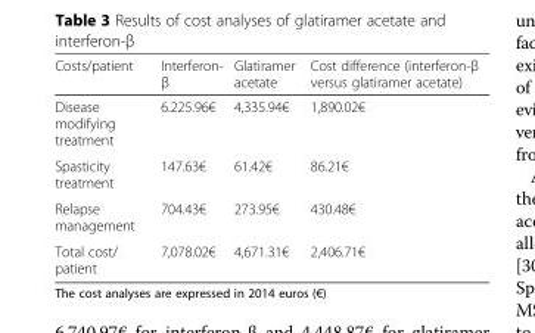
<table><thead><tr><td>Costs/patient</td><td>Interferon- β</td><td>Glatiramer acetate</td><td>Cost difference (interferon-β versus glatiramer acetate)</td></tr></thead><tbody><tr><td>Disease modifying treatment</td><td>6.225.96€</td><td>4,335.94€</td><td>1,890.02€</td></tr><tr><td>Spasticity treatment</td><td>147.63€</td><td>61.42€</td><td>86.21€</td></tr><tr><td>Relapse management</td><td>704.43€</td><td>273.95€</td><td>430.48€</td></tr><tr><td>Total cost/ patient</td><td>7,078.02€</td><td>4,671.31€</td><td>2,406.71€</td></tr></tbody></table>